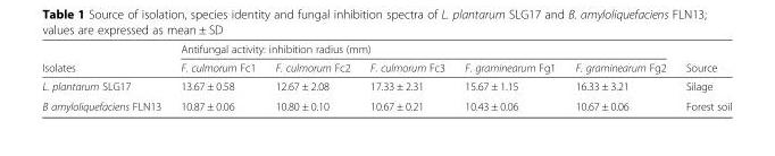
<table><thead><tr><td rowspan="2">Isolates</td><td colspan="5">Antifungal activity: inhibition radius (mm)</td><td rowspan="2">Source</td></tr><tr><td>F. culmorum Fc1</td><td>F. culmorum Fc2</td><td>F. culmorum Fc3</td><td>F. graminearum Fg1</td><td>F. graminearum Fg2</td></tr></thead><tbody><tr><td>L. plantarum SLG17</td><td>13.67 ± 0.58</td><td>12.67 ± 2.08</td><td>17.33 ± 2.31</td><td>15.67 ± 1.15</td><td>16.33 ± 3.21</td><td>Silage</td></tr><tr><td>B amyloliquefaciens FLN13</td><td>10.87 ± 0.06</td><td>10.80 ± 0.10</td><td>10.67 ± 0.21</td><td>10.43 ± 0.06</td><td>10.67 ± 0.06</td><td>Forest soil</td></tr></tbody></table>